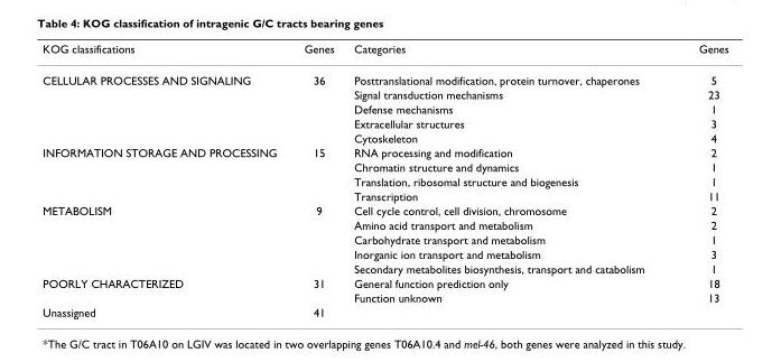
<table><thead><tr><td>KOG classifications</td><td>Genes</td><td>Categories</td><td>Genes</td></tr></thead><tbody><tr><td rowspan="5">CELLULAR PROCESSES AND SIGNALING</td><td>36</td><td>Posttranslational modification, protein turnover, chaperones</td><td>5</td></tr><tr><td></td><td>Signal transduction mechanisms</td><td>23</td></tr><tr><td></td><td>Defense mechanisms</td><td>1</td></tr><tr><td></td><td>Extracellular structures</td><td>3</td></tr><tr><td></td><td>Cytoskeleton</td><td>4</td></tr><tr><td rowspan="4">INFORMATION STORAGE AND PROCESSING</td><td>15</td><td>RNA processing and modification</td><td>2</td></tr><tr><td></td><td>Chromatin structure and dynamics</td><td>1</td></tr><tr><td></td><td>Translation, ribosomal structure and biogenesis</td><td>1</td></tr><tr><td></td><td>Transcription</td><td>11</td></tr><tr><td rowspan="5">METABOLISM</td><td>9</td><td>Cell cycle control, cell division, chromosome</td><td>2</td></tr><tr><td></td><td>Amino acid transport and metabolism</td><td>2</td></tr><tr><td></td><td>Carbohydrate transport and metabolism</td><td>1</td></tr><tr><td></td><td>Inorganic ion transport and metabolism</td><td>3</td></tr><tr><td></td><td>Secondary metabolites biosynthesis, transport and catabolism</td><td>1</td></tr><tr><td rowspan="2">POORLY CHARACTERIZED</td><td>31</td><td>General function prediction only</td><td>18</td></tr><tr><td></td><td>Function unknown</td><td>13</td></tr><tr><td>Unassigned</td><td>41</td><td></td><td></td></tr></tbody></table>